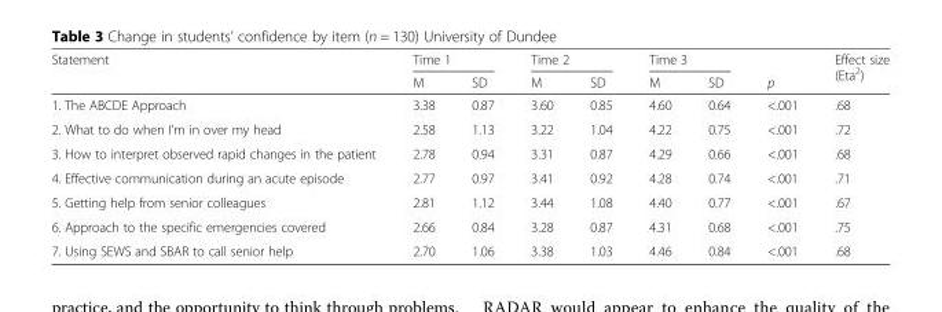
<table><thead><tr><td rowspan="2">Statement</td><td colspan="2">Time 1</td><td colspan="2">Time 2</td><td colspan="2">Time 3</td><td rowspan="2">p</td><td rowspan="2">Effect size (Eta<sup>2</sup>)</td></tr><tr><td>M</td><td>SD</td><td>M</td><td>SD</td><td>M</td><td>SD</td></tr></thead><tbody><tr><td>1. The ABCDE Approach</td><td>3.38</td><td>0.87</td><td>3.60</td><td>0.85</td><td>4.60</td><td>0.64</td><td>&lt;.001</td><td>.68</td></tr><tr><td>2. What to do when I’m in over my head</td><td>2.58</td><td>1.13</td><td>3.22</td><td>1.04</td><td>4.22</td><td>0.75</td><td>&lt;.001</td><td>.72</td></tr><tr><td>3. How to interpret observed rapid changes in the patient</td><td>2.78</td><td>0.94</td><td>3.31</td><td>0.87</td><td>4.29</td><td>0.66</td><td>&lt;.001</td><td>.68</td></tr><tr><td>4. Effective communication during an acute episode</td><td>2.77</td><td>0.97</td><td>3.41</td><td>0.92</td><td>4.28</td><td>0.74</td><td>&lt;.001</td><td>.71</td></tr><tr><td>5. Getting help from senior colleagues</td><td>2.81</td><td>1.12</td><td>3.44</td><td>1.08</td><td>4.40</td><td>0.77</td><td>&lt;.001</td><td>.67</td></tr><tr><td>6. Approach to the specific emergencies covered</td><td>2.66</td><td>0.84</td><td>3.28</td><td>0.87</td><td>4.31</td><td>0.68</td><td>&lt;.001</td><td>.75</td></tr><tr><td>7. Using SEWS and SBAR to call senior help</td><td>2.70</td><td>1.06</td><td>3.38</td><td>1.03</td><td>4.46</td><td>0.84</td><td>&lt;.001</td><td>.68</td></tr></tbody></table>